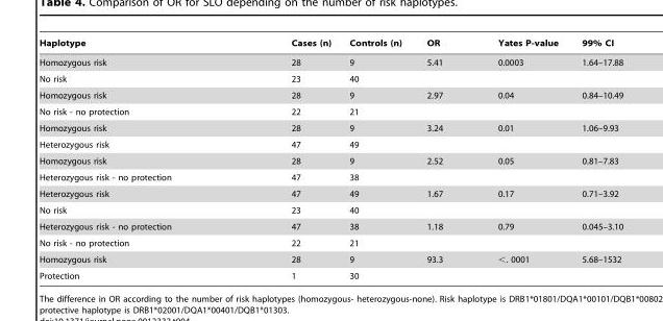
<table><thead><tr><td>Haplotype</td><td>Cases (n)</td><td>Controls (n)</td><td>OR</td><td>Yates P-value</td><td>99% CI</td></tr></thead><tbody><tr><td>Homozygous risk</td><td>28</td><td>9</td><td>5.41</td><td>0.0003</td><td>1.64–17.88</td></tr><tr><td>No risk</td><td>23</td><td>40</td><td></td><td></td><td></td></tr><tr><td>Homozygous risk</td><td>28</td><td>9</td><td>2.97</td><td>0.04</td><td>0.84–10.49</td></tr><tr><td>No risk - no protection</td><td>22</td><td>21</td><td></td><td></td><td></td></tr><tr><td>Homozygous risk</td><td>28</td><td>9</td><td>3.24</td><td>0.01</td><td>1.06–9.93</td></tr><tr><td>Heterozygous risk</td><td>47</td><td>49</td><td></td><td></td><td></td></tr><tr><td>Homozygous risk</td><td>28</td><td>9</td><td>2.52</td><td>0.05</td><td>0.81–7.83</td></tr><tr><td>Heterozygous risk - no protection</td><td>47</td><td>38</td><td></td><td></td><td></td></tr><tr><td>Heterozygous risk</td><td>47</td><td>49</td><td>1.67</td><td>0.17</td><td>0.71–3.92</td></tr><tr><td>No risk</td><td>23</td><td>40</td><td></td><td></td><td></td></tr><tr><td>Heterozygous risk - no protection</td><td>47</td><td>38</td><td>1.18</td><td>0.79</td><td>0.045–3.10</td></tr><tr><td>No risk - no protection</td><td>22</td><td>21</td><td></td><td></td><td></td></tr><tr><td>Homozygous risk</td><td>28</td><td>9</td><td>93.3</td><td>&lt;. 0001</td><td>5.68–1532</td></tr><tr><td>Protection</td><td>1</td><td>30</td><td></td><td></td><td></td></tr></tbody></table>